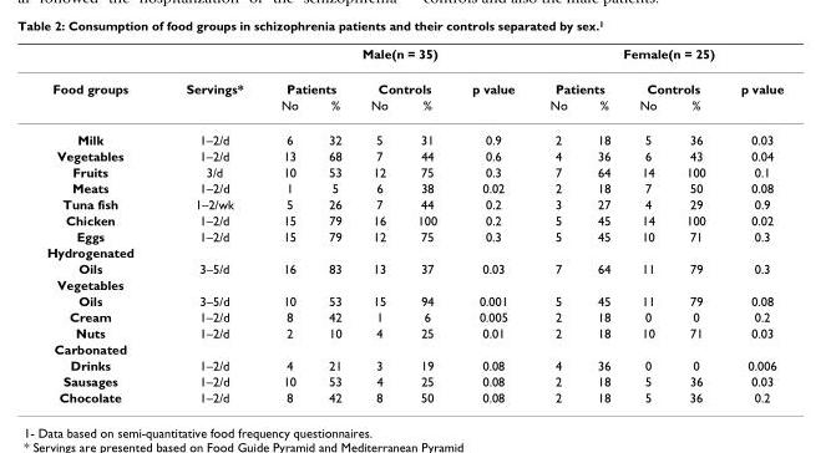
<table><thead><tr><td rowspan="3">Food groups</td><td rowspan="3">Servings*</td><td colspan="5">Male(n = 35)</td><td colspan="5">Female(n = 25)</td></tr><tr><td colspan="2">Patients</td><td colspan="2">Controls</td><td rowspan="2">p value</td><td colspan="2">Patients</td><td colspan="2">Controls</td><td rowspan="2">p value</td></tr><tr><td>No</td><td>%</td><td>No</td><td>%</td><td>No</td><td>%</td><td>No</td><td>%</td></tr></thead><tbody><tr><td>Milk</td><td>1–2/d</td><td>6</td><td>32</td><td>5</td><td>31</td><td>0.9</td><td>2</td><td>18</td><td>5</td><td>36</td><td>0.03</td></tr><tr><td>Vegetables</td><td>1–2/d</td><td>13</td><td>68</td><td>7</td><td>44</td><td>0.6</td><td>4</td><td>36</td><td>6</td><td>43</td><td>0.04</td></tr><tr><td>Fruits</td><td>3/d</td><td>10</td><td>53</td><td>12</td><td>75</td><td>0.3</td><td>7</td><td>64</td><td>14</td><td>100</td><td>0.1</td></tr><tr><td>Meats</td><td>1–2/d</td><td>1</td><td>5</td><td>6</td><td>38</td><td>0.02</td><td>2</td><td>18</td><td>7</td><td>50</td><td>0.08</td></tr><tr><td>Tuna fish</td><td>1–2/wk</td><td>5</td><td>26</td><td>7</td><td>44</td><td>0.2</td><td>3</td><td>27</td><td>4</td><td>29</td><td>0.9</td></tr><tr><td>Chicken</td><td>1–2/d</td><td>15</td><td>79</td><td>16</td><td>100</td><td>0.2</td><td>5</td><td>45</td><td>14</td><td>100</td><td>0.02</td></tr><tr><td>Eggs</td><td>1–2/d</td><td>15</td><td>79</td><td>12</td><td>75</td><td>0.3</td><td>5</td><td>45</td><td>10</td><td>71</td><td>0.3</td></tr><tr><td colspan="12">Hydrogenated</td></tr><tr><td>Oils</td><td>3–5/d</td><td>16</td><td>83</td><td>13</td><td>37</td><td>0.03</td><td>7</td><td>64</td><td>11</td><td>79</td><td>0.3</td></tr><tr><td colspan="12">Vegetables</td></tr><tr><td>Oils</td><td>3–5/d</td><td>10</td><td>53</td><td>15</td><td>94</td><td>0.001</td><td>5</td><td>45</td><td>11</td><td>79</td><td>0.08</td></tr><tr><td>Cream</td><td>1–2/d</td><td>8</td><td>42</td><td>1</td><td>6</td><td>0.005</td><td>2</td><td>18</td><td>0</td><td>0</td><td>0.2</td></tr><tr><td>Nuts</td><td>1–2/d</td><td>2</td><td>10</td><td>4</td><td>25</td><td>0.01</td><td>2</td><td>18</td><td>10</td><td>71</td><td>0.03</td></tr><tr><td colspan="12">Carbonated</td></tr><tr><td>Drinks</td><td>1–2/d</td><td>4</td><td>21</td><td>3</td><td>19</td><td>0.08</td><td>4</td><td>36</td><td>0</td><td>0</td><td>0.006</td></tr><tr><td>Sausages</td><td>1–2/d</td><td>10</td><td>53</td><td>4</td><td>25</td><td>0.08</td><td>2</td><td>18</td><td>5</td><td>36</td><td>0.03</td></tr><tr><td>Chocolate</td><td>1–2/d</td><td>8</td><td>42</td><td>8</td><td>50</td><td>0.08</td><td>2</td><td>18</td><td>5</td><td>36</td><td>0.2</td></tr></tbody></table>